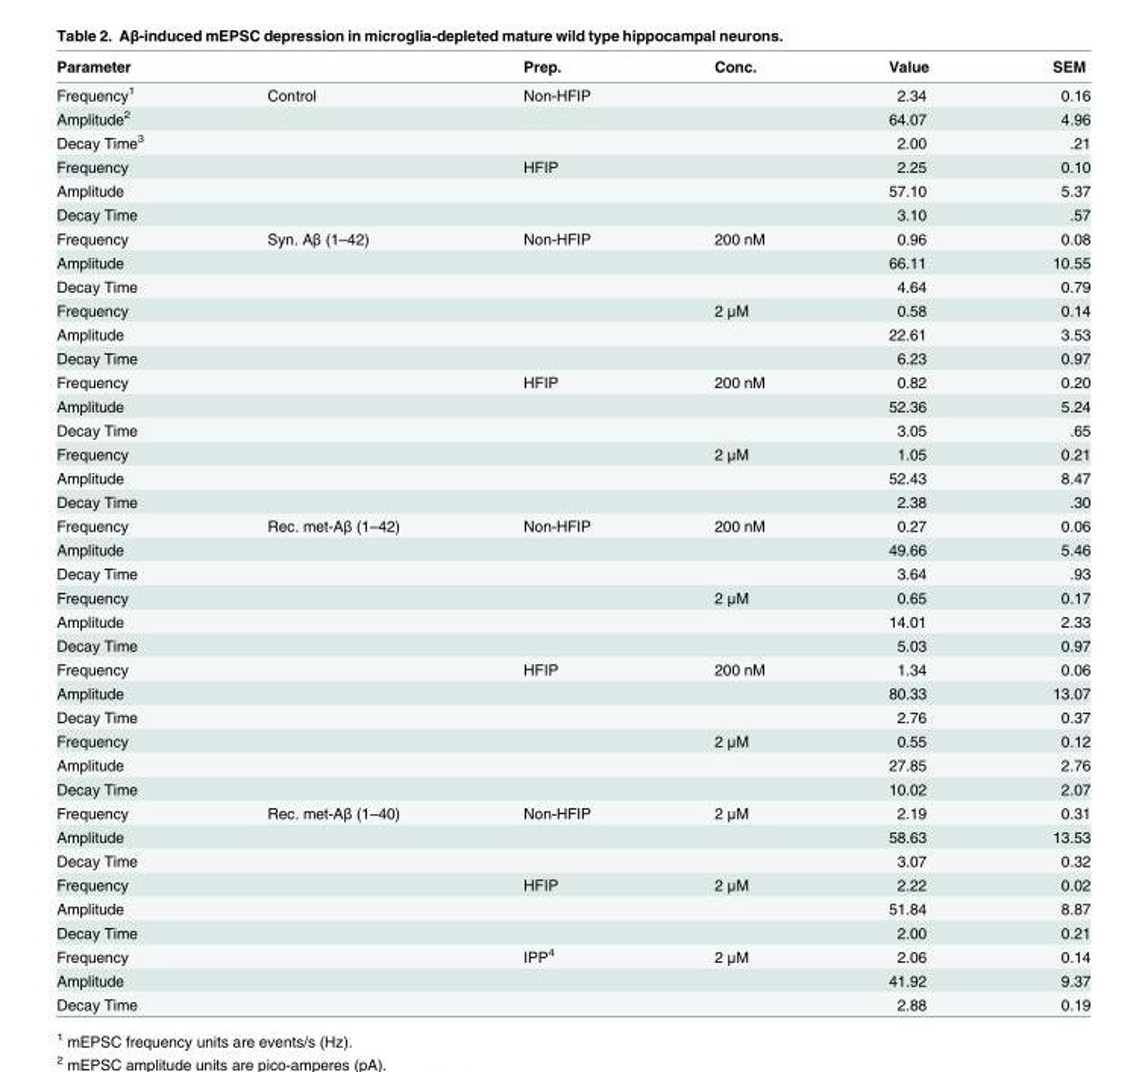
<table><thead><tr><td>Parameter</td><td></td><td>Prep.</td><td>Conc.</td><td>Value</td><td>SEM</td></tr></thead><tbody><tr><td>Frequency<sup>1</sup></td><td>Control</td><td>Non-HFIP</td><td></td><td>2.34</td><td>0.16</td></tr><tr><td>Amplitude<sup>2</sup></td><td></td><td></td><td></td><td>64.07</td><td>4.96</td></tr><tr><td>Decay Time<sup>3</sup></td><td></td><td></td><td></td><td>2.00</td><td>.21</td></tr><tr><td>Frequency</td><td></td><td>HFIP</td><td></td><td>2.25</td><td>0.10</td></tr><tr><td>Amplitude</td><td></td><td></td><td></td><td>57.10</td><td>5.37</td></tr><tr><td>Decay Time</td><td></td><td></td><td></td><td>3.10</td><td>.57</td></tr><tr><td>Frequency</td><td>Syn. Aβ (1–42)</td><td>Non-HFIP</td><td>200 nM</td><td>0.96</td><td>0.08</td></tr><tr><td>Amplitude</td><td></td><td></td><td></td><td>66.11</td><td>10.55</td></tr><tr><td>Decay Time</td><td></td><td></td><td></td><td>4.64</td><td>0.79</td></tr><tr><td>Frequency</td><td></td><td></td><td>2 μM</td><td>0.58</td><td>0.14</td></tr><tr><td>Amplitude</td><td></td><td></td><td></td><td>22.61</td><td>3.53</td></tr><tr><td>Decay Time</td><td></td><td></td><td></td><td>6.23</td><td>0.97</td></tr><tr><td>Frequency</td><td></td><td>HFIP</td><td>200 nM</td><td>0.82</td><td>0.20</td></tr><tr><td>Amplitude</td><td></td><td></td><td></td><td>52.36</td><td>5.24</td></tr><tr><td>Decay Time</td><td></td><td></td><td></td><td>3.05</td><td>.65</td></tr><tr><td>Frequency</td><td></td><td></td><td>2 μM</td><td>1.05</td><td>0.21</td></tr><tr><td>Amplitude</td><td></td><td></td><td></td><td>52.43</td><td>8.47</td></tr><tr><td>Decay Time</td><td></td><td></td><td></td><td>2.38</td><td>.30</td></tr><tr><td>Frequency</td><td>Rec. met-Aβ (1–42)</td><td>Non-HFIP</td><td>200 nM</td><td>0.27</td><td>0.06</td></tr><tr><td>Amplitude</td><td></td><td></td><td></td><td>49.66</td><td>5.46</td></tr><tr><td>Decay Time</td><td></td><td></td><td></td><td>3.64</td><td>.93</td></tr><tr><td>Frequency</td><td></td><td></td><td>2 μM</td><td>0.65</td><td>0.17</td></tr><tr><td>Amplitude</td><td></td><td></td><td></td><td>14.01</td><td>2.33</td></tr><tr><td>Decay Time</td><td></td><td></td><td></td><td>5.03</td><td>0.97</td></tr><tr><td>Frequency</td><td></td><td>HFIP</td><td>200 nM</td><td>1.34</td><td>0.06</td></tr><tr><td>Amplitude</td><td></td><td></td><td></td><td>80.33</td><td>13.07</td></tr><tr><td>Decay Time</td><td></td><td></td><td></td><td>2.76</td><td>0.37</td></tr><tr><td>Frequency</td><td></td><td></td><td>2 μM</td><td>0.55</td><td>0.12</td></tr><tr><td>Amplitude</td><td></td><td></td><td></td><td>27.85</td><td>2.76</td></tr><tr><td>Decay Time</td><td></td><td></td><td></td><td>10.02</td><td>2.07</td></tr><tr><td>Frequency</td><td>Rec. met-Aβ (1–40)</td><td>Non-HFIP</td><td>2 μM</td><td>2.19</td><td>0.31</td></tr><tr><td>Amplitude</td><td></td><td></td><td></td><td>58.63</td><td>13.53</td></tr><tr><td>Decay Time</td><td></td><td></td><td></td><td>3.07</td><td>0.32</td></tr><tr><td>Frequency</td><td></td><td>HFIP</td><td>2 μM</td><td>2.22</td><td>0.02</td></tr><tr><td>Amplitude</td><td></td><td></td><td></td><td>51.84</td><td>8.87</td></tr><tr><td>Decay Time</td><td></td><td></td><td></td><td>2.00</td><td>0.21</td></tr><tr><td>Frequency</td><td></td><td>IPP<sup>4</sup></td><td>2 μM</td><td>2.06</td><td>0.14</td></tr><tr><td>Amplitude</td><td></td><td></td><td></td><td>41.92</td><td>9.37</td></tr><tr><td>Decay Time</td><td></td><td></td><td></td><td>2.88</td><td>0.19</td></tr></tbody></table>